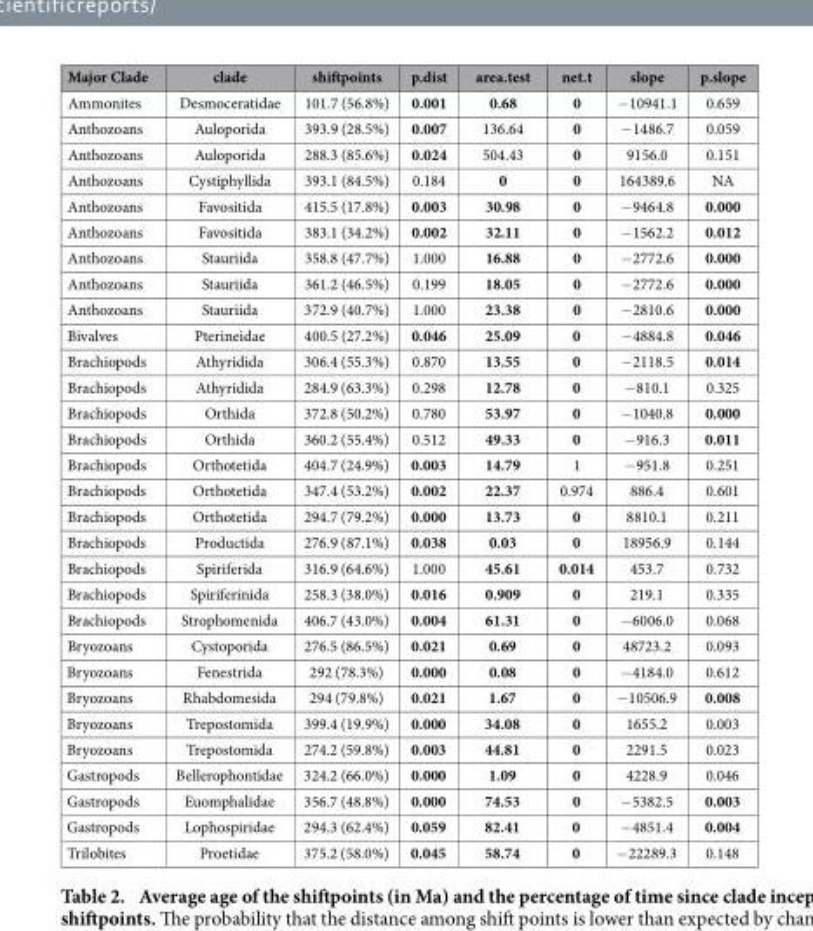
<table><thead><tr><td>Major Clade</td><td>clade</td><td>shiftpoints</td><td>p.dist</td><td>area.test</td><td>net.t</td><td>slope</td><td>p.slope</td></tr></thead><tbody><tr><td>Ammonites</td><td>Desmoceratidae</td><td>101.7 (56.8%)</td><td>0.001</td><td>0.68</td><td>0</td><td>− 10941.1</td><td>0.659</td></tr><tr><td>Anthozoans</td><td>Auloporida</td><td>393.9 (28.5%)</td><td>0.007</td><td>136.64</td><td>0</td><td>− 1486.7</td><td>0.059</td></tr><tr><td>Anthozoans</td><td>Auloporida</td><td>288.3 (85.6%)</td><td>0.024</td><td>504.43</td><td>0</td><td>9156.0</td><td>0.151</td></tr><tr><td>Anthozoans</td><td>Cystiphyllida</td><td>393.1 (84.5%)</td><td>0.184</td><td>0</td><td>0</td><td>164389.6</td><td>NA</td></tr><tr><td>Anthozoans</td><td>Favositida</td><td>415.5 (17.8%)</td><td>0.003</td><td>30.98</td><td>0</td><td>− 9464.8</td><td>0.000</td></tr><tr><td>Anthozoans</td><td>Favositida</td><td>383.1 (34.2%)</td><td>0.002</td><td>32.11</td><td>0</td><td>− 1562.2</td><td>0.012</td></tr><tr><td>Anthozoans</td><td>Stauriida</td><td>358.8 (47.7%)</td><td>1.000</td><td>16.88</td><td>0</td><td>− 2772.6</td><td>0.000</td></tr><tr><td>Anthozoans</td><td>Stauriida</td><td>361.2 (46.5%)</td><td>0.199</td><td>18.05</td><td>0</td><td>− 2772.6</td><td>0.000</td></tr><tr><td>Anthozoans</td><td>Stauriida</td><td>372.9 (40.7%)</td><td>1.000</td><td>23.38</td><td>0</td><td>− 2810.6</td><td>0.000</td></tr><tr><td>Bivalves</td><td>Pterineidae</td><td>400.5 (27.2%)</td><td>0.046</td><td>25.09</td><td>0</td><td>− 4884.8</td><td>0.046</td></tr><tr><td>Brachiopods</td><td>Athyridida</td><td>306.4 (55.3%)</td><td>0.870</td><td>13.55</td><td>0</td><td>− 2118.5</td><td>0.014</td></tr><tr><td>Brachiopods</td><td>Athyridida</td><td>284.9 (63.3%)</td><td>0.298</td><td>12.78</td><td>0</td><td>− 810.1</td><td>0.325</td></tr><tr><td>Brachiopods</td><td>Orthida</td><td>372.8 (50.2%)</td><td>0.780</td><td>53.97</td><td>0</td><td>− 1040.8</td><td>0.000</td></tr><tr><td>Brachiopods</td><td>Orthida</td><td>360.2 (55.4%)</td><td>0.512</td><td>49.33</td><td>0</td><td>− 916.3</td><td>0.011</td></tr><tr><td>Brachiopods</td><td>Orthotetida</td><td>404.7 (24.9%)</td><td>0.003</td><td>14.79</td><td>1</td><td>− 951.8</td><td>0.251</td></tr><tr><td>Brachiopods</td><td>Orthotetida</td><td>347.4 (53.2%)</td><td>0.002</td><td>22.37</td><td>0.974</td><td>886.4</td><td>0.601</td></tr><tr><td>Brachiopods</td><td>Orthotetida</td><td>294.7 (79.2%)</td><td>0.000</td><td>13.73</td><td>0</td><td>8810.1</td><td>0.211</td></tr><tr><td>Brachiopods</td><td>Productida</td><td>276.9 (87.1%)</td><td>0.038</td><td>0.03</td><td>0</td><td>18956.9</td><td>0.144</td></tr><tr><td>Brachiopods</td><td>Spiriferida</td><td>316.9 (64.6%)</td><td>1.000</td><td>45.61</td><td>0.014</td><td>453.7</td><td>0.732</td></tr><tr><td>Brachiopods</td><td>Spiriferinida</td><td>258.3 (38.0%)</td><td>0.016</td><td>0.909</td><td>0</td><td>219.1</td><td>0.335</td></tr><tr><td>Brachiopods</td><td>Strophomenida</td><td>406.7 (43.0%)</td><td>0.004</td><td>61.31</td><td>0</td><td>− 6006.0</td><td>0.068</td></tr><tr><td>Bryozoans</td><td>Cystoporida</td><td>276.5 (86.5%)</td><td>0.021</td><td>0.69</td><td>0</td><td>48723.2</td><td>0.093</td></tr><tr><td>Bryozoans</td><td>Fenestrida</td><td>292 (78.3%)</td><td>0.000</td><td>0.08</td><td>0</td><td>− 4184.0</td><td>0.612</td></tr><tr><td>Bryozoans</td><td>Rhabdomesida</td><td>294 (79.8%)</td><td>0.021</td><td>1.67</td><td>0</td><td>− 10506.9</td><td>0.008</td></tr><tr><td>Bryozoans</td><td>Trepostomida</td><td>399.4 (19.9%)</td><td>0.000</td><td>34.08</td><td>0</td><td>1655.2</td><td>0.003</td></tr><tr><td>Bryozoans</td><td>Trepostomida</td><td>274.2 (59.8%)</td><td>0.003</td><td>44.81</td><td>0</td><td>2291.5</td><td>0.023</td></tr><tr><td>Gastropods</td><td>Bellerophontidae</td><td>324.2 (66.0%)</td><td>0.000</td><td>1.09</td><td>0</td><td>4228.9</td><td>0.046</td></tr><tr><td>Gastropods</td><td>Euomphalidae</td><td>356.7 (48.8%)</td><td>0.000</td><td>74.53</td><td>0</td><td>− 5382.5</td><td>0.003</td></tr><tr><td>Gastropods</td><td>Lophospiridae</td><td>294.3 (62.4%)</td><td>0.059</td><td>82.41</td><td>0</td><td>− 4851.4</td><td>0.004</td></tr><tr><td>Trilobites</td><td>Proetidae</td><td>375.2 (58.0%)</td><td>0.045</td><td>58.74</td><td>0</td><td>− 22289.3</td><td>0.148</td></tr></tbody></table>